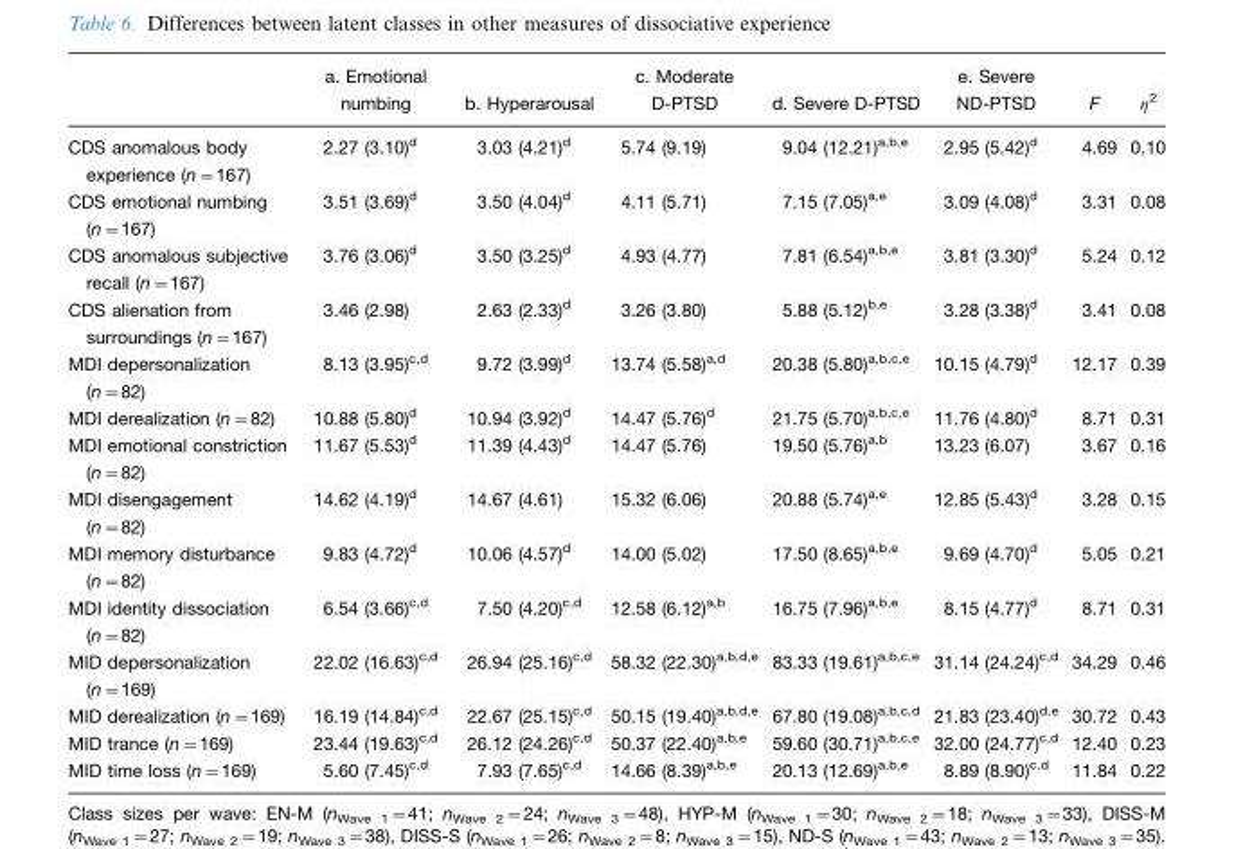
<table><thead><tr><td></td><td>a. Emotional numbing</td><td>b. Hyperarousal</td><td>c. Moderate D-PTSD</td><td>d. Severe D-PTSD</td><td>e. Severe ND-PTSD</td><td>F</td><td>η<sup>2</sup></td></tr></thead><tbody><tr><td>CDS anomalous body experience (n=167)</td><td>2.27 (3.10)<sup>d</sup></td><td>3.03 (4.21)<sup>d</sup></td><td>5.74 (9.19)</td><td>9.04 (12.21)<sup>a</sup>,<sup>b</sup>,<sup>e</sup></td><td>2.95 (5.42)<sup>d</sup></td><td>4.69</td><td>0.10</td></tr><tr><td>CDS emotional numbing (n=167)</td><td>3.51 (3.69)<sup>d</sup></td><td>3.50 (4.04)<sup>d</sup></td><td>4.11 (5.71)</td><td>7.15 (7.05)<sup>a</sup>,<sup>e</sup></td><td>3.09 (4.08)<sup>d</sup></td><td>3.31</td><td>0.08</td></tr><tr><td>CDS anomalous subjective recall (n=167)</td><td>3.76 (3.06)<sup>d</sup></td><td>3.50 (3.25)<sup>d</sup></td><td>4.93 (4.77)</td><td>7.81 (6.54)<sup>a</sup>,<sup>b</sup>,<sup>e</sup></td><td>3.81 (3.30)<sup>d</sup></td><td>5.24</td><td>0.12</td></tr><tr><td>CDS alienation from surroundings (n=167)</td><td>3.46 (2.98)</td><td>2.63 (2.33)<sup>d</sup></td><td>3.26 (3.80)</td><td>5.88 (5.12)<sup>b</sup>,<sup>e</sup></td><td>3.28 (3.38)<sup>d</sup></td><td>3.41</td><td>0.08</td></tr><tr><td>MDI depersonalization (n=82)</td><td>8.13 (3.95)<sup>c</sup>,<sup>d</sup></td><td>9.72 (3.99)<sup>d</sup></td><td>13.74 (5.58)<sup>a</sup>,<sup>d</sup></td><td>20.38 (5.80)<sup>a</sup>,<sup>b</sup>,<sup>c</sup>,<sup>e</sup></td><td>10.15 (4.79)<sup>d</sup></td><td>12.17</td><td>0.39</td></tr><tr><td>MDI derealization (n=82)</td><td>10.88 (5.80)<sup>d</sup></td><td>10.94 (3.92)<sup>d</sup></td><td>14.47 (5.76)<sup>d</sup></td><td>21.75 (5.70)<sup>a</sup>,<sup>b</sup>,<sup>c</sup>,<sup>e</sup></td><td>11.76 (4.80)<sup>d</sup></td><td>8.71</td><td>0.31</td></tr><tr><td>MDI emotional constriction (n=82)</td><td>11.67 (5.53)<sup>d</sup></td><td>11.39 (4.43)<sup>d</sup></td><td>14.47 (5.76)</td><td>19.50 (5.76)<sup>a</sup>,<sup>b</sup></td><td>13.23 (6.07)</td><td>3.67</td><td>0.16</td></tr><tr><td>MDI disengagement (n=82)</td><td>14.62 (4.19)<sup>d</sup></td><td>14.67 (4.61)</td><td>15.32 (6.06)</td><td>20.88 (5.74)<sup>a</sup>,<sup>e</sup></td><td>12.85 (5.43)<sup>d</sup></td><td>3.28</td><td>0.15</td></tr><tr><td>MDI memory disturbance (n=82)</td><td>9.83 (4.72)<sup>d</sup></td><td>10.06 (4.57)<sup>d</sup></td><td>14.00 (5.02)</td><td>17.50 (8.65)<sup>a</sup>,<sup>b</sup>,<sup>e</sup></td><td>9.69 (4.70)<sup>d</sup></td><td>5.05</td><td>0.21</td></tr><tr><td>MDI identity dissociation (n=82)</td><td>6.54 (3.66)<sup>c</sup>,<sup>d</sup></td><td>7.50 (4.20)<sup>c</sup>,<sup>d</sup></td><td>12.58 (6.12)<sup>a</sup>,<sup>b</sup></td><td>16.75 (7.96)<sup>a</sup>,<sup>b</sup>,<sup>e</sup></td><td>8.15 (4.77)<sup>d</sup></td><td>8.71</td><td>0.31</td></tr><tr><td>MID depersonalization (n=169)</td><td>22.02 (16.63)<sup>c</sup>,<sup>d</sup></td><td>26.94 (25.16)<sup>c</sup>,<sup>d</sup></td><td>58.32 (22.30)<sup>a</sup>,<sup>b</sup>,<sup>d</sup>,<sup>e</sup></td><td>83.33 (19.61)<sup>a</sup>,<sup>b</sup>,<sup>c</sup>,<sup>e</sup></td><td>31.14 (24.24)<sup>c</sup>,<sup>d</sup></td><td>34.29</td><td>0.46</td></tr><tr><td>MID derealization (n=169)</td><td>16.19 (14.84)<sup>c</sup>,<sup>d</sup></td><td>22.67 (25.15)<sup>c</sup>,<sup>d</sup></td><td>50.15 (19.40)<sup>a</sup>,<sup>b</sup>,<sup>d</sup>,<sup>e</sup></td><td>67.80 (19.08)<sup>a</sup>,<sup>b</sup>,<sup>c</sup>,<sup>d</sup></td><td>21.83 (23.40)<sup>d</sup>,<sup>e</sup></td><td>30.72</td><td>0.43</td></tr><tr><td>MID trance (n=169)</td><td>23.44 (19.63)<sup>c</sup>,<sup>d</sup></td><td>26.12 (24.26)<sup>c</sup>,<sup>d</sup></td><td>50.37 (22.40)<sup>a</sup>,<sup>b</sup>,<sup>e</sup></td><td>59.60 (30.71)<sup>a</sup>,<sup>b</sup>,<sup>c</sup>,<sup>e</sup></td><td>32.00 (24.77)<sup>c</sup>,<sup>d</sup></td><td>12.40</td><td>0.23</td></tr><tr><td>MID time loss (n=169)</td><td>5.60 (7.45)<sup>c</sup>,<sup>d</sup></td><td>7.93 (7.65)<sup>c</sup>,<sup>d</sup></td><td>14.66 (8.39)<sup>a</sup>,<sup>b</sup>,<sup>e</sup></td><td>20.13 (12.69)<sup>a</sup>,<sup>b</sup>,<sup>e</sup></td><td>8.89 (8.90)<sup>c</sup>,<sup>d</sup></td><td>11.84</td><td>0.22</td></tr></tbody></table>